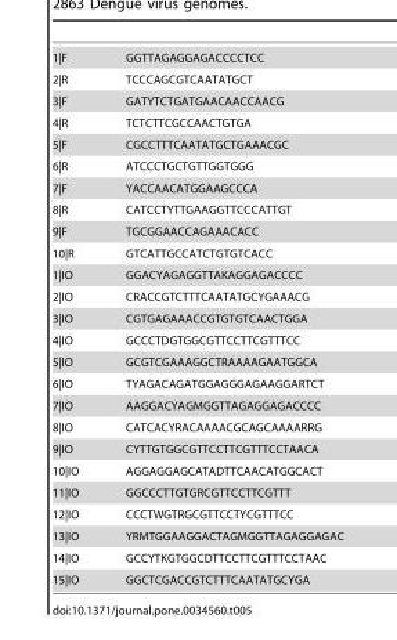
<table><tbody><tr><td>1|F</td><td>GGTTAGAGGAGACCCCTCC</td></tr><tr><td>2|R</td><td>TCCCAGCGTCAATATGCT</td></tr><tr><td>3|F</td><td>GATYTCTGATGAACAACCAACG</td></tr><tr><td>4|R</td><td>TCTCTTCGCCAACTGTGA</td></tr><tr><td>5|F</td><td>CGCCTTTCAATATGCTGAAACGC</td></tr><tr><td>6|R</td><td>ATCCCTGCTGTTGGTGGG</td></tr><tr><td>7|F</td><td>YACCAACATGGAAGCCCA</td></tr><tr><td>8|R</td><td>CATCCTYTTGAAGGTTCCCATTGT</td></tr><tr><td>9|F</td><td>TGCGGAACCAGAAACACC</td></tr><tr><td>10|R</td><td>GTCATTGCCATCTGTGTCACC</td></tr><tr><td>1|IO</td><td>GGACYAGAGGTTAKAGGAGACCCC</td></tr><tr><td>2|IO</td><td>CRACCGTCTTTCAATATGCYGAAACG</td></tr><tr><td>3|IO</td><td>CGTGAGAAACCGTGTGTCAACTGGA</td></tr><tr><td>4|IO</td><td>GCCCTDGTGGCGTTCCTTCGTTTCC</td></tr><tr><td>5|IO</td><td>GCGTCGAAAGGCTRAAAAGAATGGCA</td></tr><tr><td>6|IO</td><td>TYAGACAGATGGAGGGAGAAGGARTCT</td></tr><tr><td>7|IO</td><td>AAGGACYAGMGGTTAGAGGAGACCCC</td></tr><tr><td>8|IO</td><td>CATCACYRACAAAACGCAGCAAAARRG</td></tr><tr><td>9|IO</td><td>CYTTGTGGCGTTCCTTCGTTTCCTAACA</td></tr><tr><td>10|IO</td><td>AGGAGGAGCATADTTCAACATGGCACT</td></tr><tr><td>11|IO</td><td>GGCCCTTGTGRCGTTCCTTCGTTT</td></tr><tr><td>12|IO</td><td>CCCTWGTRGCGTTCCTYCGTTTCC</td></tr><tr><td>13|IO</td><td>YRMTGGAAGGACTAGMGGTTAGAGGAGAC</td></tr><tr><td>14|IO</td><td>GCCYTKGTGGCDTTCCTTCGTTTCCTAAC</td></tr><tr><td>15|IO</td><td>GGCTCGACCGTCTTTCAATATGCYGA</td></tr></tbody></table>